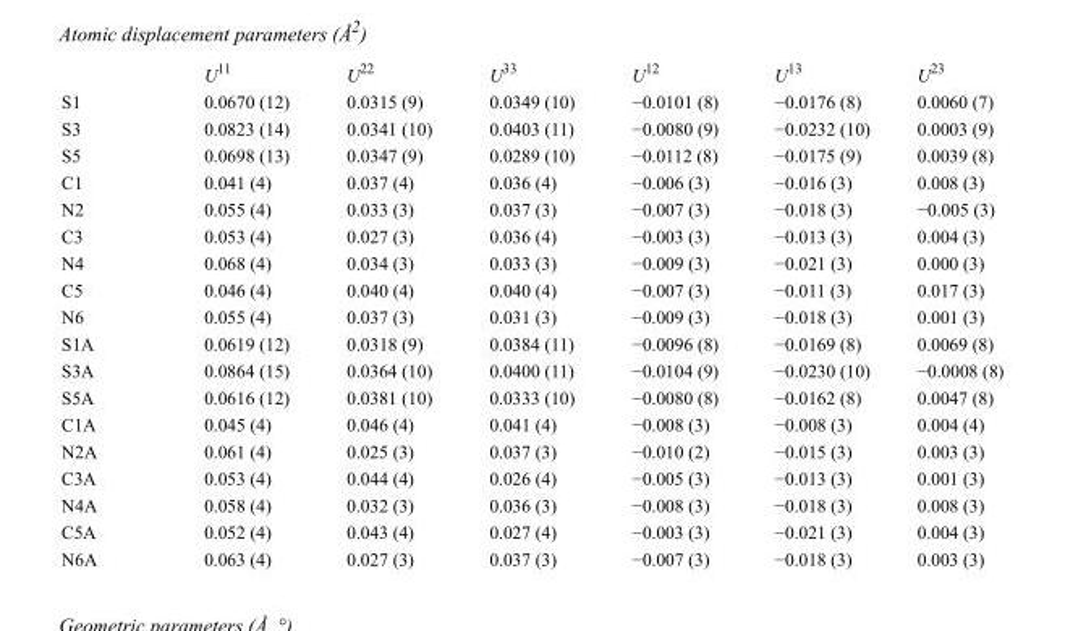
<table><thead><tr><td></td><td>U<sup>11</sup></td><td>U<sup>22</sup></td><td>U<sup>33</sup></td><td>U<sup>12</sup></td><td>U<sup>13</sup></td><td>U<sup>23</sup></td></tr></thead><tbody><tr><td>S1</td><td>0.0670 (12)</td><td>0.0315 (9)</td><td>0.0349 (10)</td><td>−0.0101 (8)</td><td>−0.0176 (8)</td><td>0.0060 (7)</td></tr><tr><td>S3</td><td>0.0823 (14)</td><td>0.0341 (10)</td><td>0.0403 (11)</td><td>−0.0080 (9)</td><td>−0.0232 (10)</td><td>0.0003 (9)</td></tr><tr><td>S5</td><td>0.0698 (13)</td><td>0.0347 (9)</td><td>0.0289 (10)</td><td>−0.0112 (8)</td><td>−0.0175 (9)</td><td>0.0039 (8)</td></tr><tr><td>C1</td><td>0.041 (4)</td><td>0.037 (4)</td><td>0.036 (4)</td><td>−0.006 (3)</td><td>−0.016 (3)</td><td>0.008 (3)</td></tr><tr><td>N2</td><td>0.055 (4)</td><td>0.033 (3)</td><td>0.037 (3)</td><td>−0.007 (3)</td><td>−0.018 (3)</td><td>−0.005 (3)</td></tr><tr><td>C3</td><td>0.053 (4)</td><td>0.027 (3)</td><td>0.036 (4)</td><td>−0.003 (3)</td><td>−0.013 (3)</td><td>0.004 (3)</td></tr><tr><td>N4</td><td>0.068 (4)</td><td>0.034 (3)</td><td>0.033 (3)</td><td>−0.009 (3)</td><td>−0.021 (3)</td><td>0.000 (3)</td></tr><tr><td>C5</td><td>0.046 (4)</td><td>0.040 (4)</td><td>0.040 (4)</td><td>−0.007 (3)</td><td>−0.011 (3)</td><td>0.017 (3)</td></tr><tr><td>N6</td><td>0.055 (4)</td><td>0.037 (3)</td><td>0.031 (3)</td><td>−0.009 (3)</td><td>−0.018 (3)</td><td>0.001 (3)</td></tr><tr><td>S1A</td><td>0.0619 (12)</td><td>0.0318 (9)</td><td>0.0384 (11)</td><td>−0.0096 (8)</td><td>−0.0169 (8)</td><td>0.0069 (8)</td></tr><tr><td>S3A</td><td>0.0864 (15)</td><td>0.0364 (10)</td><td>0.0400 (11)</td><td>−0.0104 (9)</td><td>−0.0230 (10)</td><td>−0.0008 (8)</td></tr><tr><td>S5A</td><td>0.0616 (12)</td><td>0.0381 (10)</td><td>0.0333 (10)</td><td>−0.0080 (8)</td><td>−0.0162 (8)</td><td>0.0047 (8)</td></tr><tr><td>C1A</td><td>0.045 (4)</td><td>0.046 (4)</td><td>0.041 (4)</td><td>−0.008 (3)</td><td>−0.008 (3)</td><td>0.004 (4)</td></tr><tr><td>N2A</td><td>0.061 (4)</td><td>0.025 (3)</td><td>0.037 (3)</td><td>−0.010 (2)</td><td>−0.015 (3)</td><td>0.003 (3)</td></tr><tr><td>C3A</td><td>0.053 (4)</td><td>0.044 (4)</td><td>0.026 (4)</td><td>−0.005 (3)</td><td>−0.013 (3)</td><td>0.001 (3)</td></tr><tr><td>N4A</td><td>0.058 (4)</td><td>0.032 (3)</td><td>0.036 (3)</td><td>−0.008 (3)</td><td>−0.018 (3)</td><td>0.008 (3)</td></tr><tr><td>C5A</td><td>0.052 (4)</td><td>0.043 (4)</td><td>0.027 (4)</td><td>−0.003 (3)</td><td>−0.021 (3)</td><td>0.004 (3)</td></tr><tr><td>N6A</td><td>0.063 (4)</td><td>0.027 (3)</td><td>0.037 (3)</td><td>−0.007 (3)</td><td>−0.018 (3)</td><td>0.003 (3)</td></tr></tbody></table>